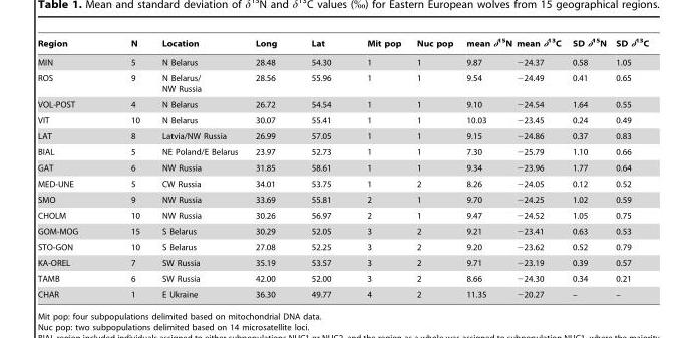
<table><thead><tr><td>Region</td><td>N</td><td>Location</td><td>Long</td><td>Lat</td><td>Mit pop</td><td>Nuc pop</td><td>mean δ<sup>15</sup>N</td><td>mean δ<sup>13</sup>C</td><td>SD δ<sup>15</sup>N</td><td>SD δ<sup>13</sup>C</td></tr></thead><tbody><tr><td>MIN</td><td>5</td><td>N Belarus</td><td>28.48</td><td>54.30</td><td>1</td><td>1</td><td>9.87</td><td>−24.37</td><td>0.58</td><td>1.05</td></tr><tr><td>ROS</td><td>9</td><td>N Belarus/ NW Russia</td><td>28.56</td><td>55.96</td><td>1</td><td>1</td><td>9.54</td><td>−24.49</td><td>0.41</td><td>0.65</td></tr><tr><td>VOL-POST</td><td>4</td><td>N Belarus</td><td>26.72</td><td>54.54</td><td>1</td><td>1</td><td>9.10</td><td>−24.54</td><td>1.64</td><td>0.55</td></tr><tr><td>VIT</td><td>10</td><td>N Belarus</td><td>30.07</td><td>55.41</td><td>1</td><td>1</td><td>10.03</td><td>−23.45</td><td>0.24</td><td>0.49</td></tr><tr><td>LAT</td><td>8</td><td>Latvia/NW Russia</td><td>26.99</td><td>57.05</td><td>1</td><td>1</td><td>9.15</td><td>−24.86</td><td>0.37</td><td>0.83</td></tr><tr><td>BIAL</td><td>5</td><td>NE Poland/E Belarus</td><td>23.97</td><td>52.73</td><td>1</td><td>1</td><td>7.30</td><td>−25.79</td><td>1.10</td><td>0.66</td></tr><tr><td>GAT</td><td>6</td><td>NW Russia</td><td>31.85</td><td>58.61</td><td>1</td><td>1</td><td>9.34</td><td>−23.96</td><td>1.77</td><td>0.64</td></tr><tr><td>MED-UNE</td><td>5</td><td>CW Russia</td><td>34.01</td><td>53.75</td><td>1</td><td>2</td><td>8.26</td><td>−24.05</td><td>0.12</td><td>0.52</td></tr><tr><td>SMO</td><td>9</td><td>NW Russia</td><td>33.69</td><td>55.81</td><td>2</td><td>1</td><td>9.70</td><td>−24.25</td><td>1.02</td><td>0.59</td></tr><tr><td>CHOLM</td><td>10</td><td>NW Russia</td><td>30.26</td><td>56.97</td><td>2</td><td>1</td><td>9.47</td><td>−24.52</td><td>1.05</td><td>0.75</td></tr><tr><td>GOM-MOG</td><td>15</td><td>S Belarus</td><td>30.29</td><td>52.05</td><td>3</td><td>2</td><td>9.21</td><td>−23.41</td><td>0.63</td><td>0.53</td></tr><tr><td>STO-GON</td><td>10</td><td>S Belarus</td><td>27.08</td><td>52.25</td><td>3</td><td>2</td><td>9.20</td><td>−23.62</td><td>0.52</td><td>0.79</td></tr><tr><td>KA-OREL</td><td>7</td><td>SW Russia</td><td>35.19</td><td>53.57</td><td>3</td><td>2</td><td>9.71</td><td>−23.19</td><td>0.39</td><td>0.57</td></tr><tr><td>TAMB</td><td>6</td><td>SW Russia</td><td>42.00</td><td>52.00</td><td>3</td><td>2</td><td>8.66</td><td>−24.30</td><td>0.34</td><td>0.21</td></tr><tr><td>CHAR</td><td>1</td><td>E Ukraine</td><td>36.30</td><td>49.77</td><td>4</td><td>2</td><td>11.35</td><td>−20.27</td><td>–</td><td>–</td></tr></tbody></table>